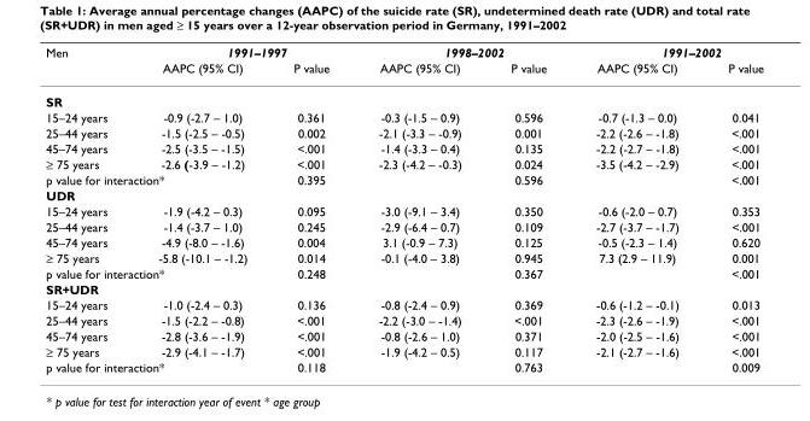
<table><thead><tr><td rowspan="2">Men</td><td colspan="2">1991–1997</td><td colspan="2">1998–2002</td><td colspan="2">1991–2002</td></tr><tr><td>AAPC (95% CI)</td><td>P value</td><td>AAPC (95% CI)</td><td>P value</td><td>AAPC (95% CI)</td><td>P value</td></tr></thead><tbody><tr><td colspan="7">SR</td></tr><tr><td>15–24 years</td><td>-0.9 (-2.7 – 1.0)</td><td>0.361</td><td>-0.3 (-1.5 – 0.9)</td><td>0.596</td><td>-0.7 (-1.3 – 0.0)</td><td>0.041</td></tr><tr><td>25–44 years</td><td>-1.5 (-2.5 – -0.5)</td><td>0.002</td><td>-2.1 (-3.3 – -0.9)</td><td>0.001</td><td>-2.2 (-2.6 – -1.8)</td><td>&lt;.001</td></tr><tr><td>45–74 years</td><td>-2.5 (-3.5 – -1.5)</td><td>&lt;.001</td><td>-1.4 (-3.3 – 0.4)</td><td>0.135</td><td>-2.2 (-2.7 – -1.8)</td><td>&lt;.001</td></tr><tr><td>≥ 75 years</td><td>-2.6 (-3.9 – -1.2)</td><td>&lt;.001</td><td>-2.3 (-4.2 – -0.3)</td><td>0.024</td><td>-3.5 (-4.2 – -2.9)</td><td>&lt;.001</td></tr><tr><td colspan="2">p value for interaction*</td><td>0.395</td><td></td><td>0.596</td><td></td><td>&lt;.001</td></tr><tr><td colspan="7">UDR</td></tr><tr><td>15–24 years</td><td>-1.9 (-4.2 – 0.3)</td><td>0.095</td><td>-3.0 (-9.1 – 3.4)</td><td>0.350</td><td>-0.6 (-2.0 – 0.7)</td><td>0.353</td></tr><tr><td>25–44 years</td><td>-1.4 (-3.7 – 1.0)</td><td>0.245</td><td>-2.9 (-6.4 – 0.7)</td><td>0.109</td><td>-2.7 (-3.7 – -1.7)</td><td>&lt;.001</td></tr><tr><td>45–74 years</td><td>-4.9 (-8.0 – -1.6)</td><td>0.004</td><td>3.1 (-0.9 – 7.3)</td><td>0.125</td><td>-0.5 (-2.3 – 1.4)</td><td>0.620</td></tr><tr><td>≥ 75 years</td><td>-5.8 (-10.1 – -1.2)</td><td>0.014</td><td>-0.1 (-4.0 – 3.8)</td><td>0.945</td><td>7.3 (2.9 – 11.9)</td><td>0.001</td></tr><tr><td colspan="2">p value for interaction*</td><td>0.248</td><td></td><td>0.367</td><td></td><td>&lt;.001</td></tr><tr><td colspan="7">SR+UDR</td></tr><tr><td>15–24 years</td><td>-1.0 (-2.4 – 0.3)</td><td>0.136</td><td>-0.8 (-2.4 – 0.9)</td><td>0.369</td><td>-0.6 (-1.2 – -0.1)</td><td>0.013</td></tr><tr><td>25–44 years</td><td>-1.5 (-2.2 – -0.8)</td><td>&lt;.001</td><td>-2.2 (-3.0 – -1.4)</td><td>&lt;.001</td><td>-2.3 (-2.6 – -1.9)</td><td>&lt;.001</td></tr><tr><td>45–74 years</td><td>-2.8 (-3.6 – -1.9)</td><td>&lt;.001</td><td>-0.8 (-2.6 – 1.0)</td><td>0.371</td><td>-2.0 (-2.5 – -1.6)</td><td>&lt;.001</td></tr><tr><td>≥ 75 years</td><td>-2.9 (-4.1 – -1.7)</td><td>&lt;.001</td><td>-1.9 (-4.2 – 0.5)</td><td>0.117</td><td>-2.1 (-2.7 – -1.6)</td><td>&lt;.001</td></tr><tr><td colspan="2">p value for interaction*</td><td>0.118</td><td></td><td>0.763</td><td></td><td>0.009</td></tr></tbody></table>